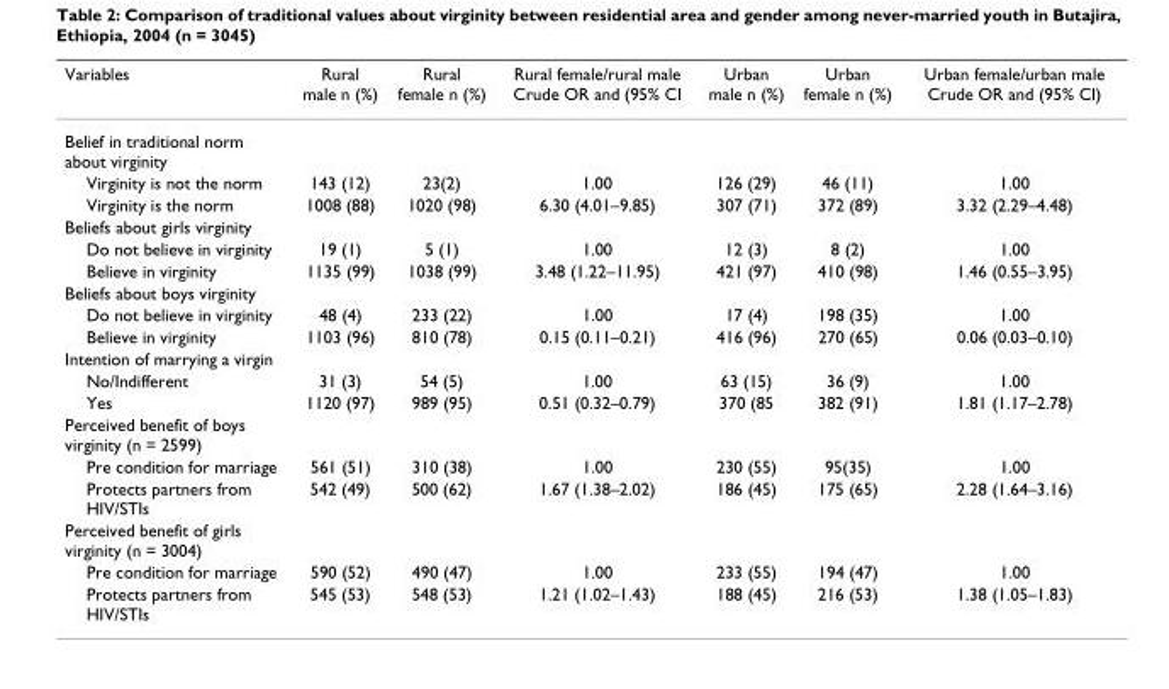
<table><thead><tr><td>Variables</td><td>Rural male n (%)</td><td>Rural female n (%)</td><td>Rural female/rural male Crude OR and (95% CI</td><td>Urban male n (%)</td><td>Urban female n (%)</td><td>Urban female/urban male Crude OR and (95% CI)</td></tr></thead><tbody><tr><td colspan="7">Belief in traditional norm about virginity</td></tr><tr><td>Virginity is not the norm</td><td>143 (12)</td><td>23(2)</td><td>1.00</td><td>126 (29)</td><td>46 (11)</td><td>1.00</td></tr><tr><td>Virginity is the norm</td><td>1008 (88)</td><td>1020 (98)</td><td>6.30 (4.01–9.85)</td><td>307 (71)</td><td>372 (89)</td><td>3.32 (2.29–4.48)</td></tr><tr><td colspan="7">Beliefs about girls virginity</td></tr><tr><td>Do not believe in virginity</td><td>19 (1)</td><td>5 (1)</td><td>1.00</td><td>12 (3)</td><td>8 (2)</td><td>1.00</td></tr><tr><td>Believe in virginity</td><td>1135 (99)</td><td>1038 (99)</td><td>3.48 (1.22–11.95)</td><td>421 (97)</td><td>410 (98)</td><td>1.46 (0.55–3.95)</td></tr><tr><td colspan="7">Beliefs about boys virginity</td></tr><tr><td>Do not believe in virginity</td><td>48 (4)</td><td>233 (22)</td><td>1.00</td><td>17 (4)</td><td>198 (35)</td><td>1.00</td></tr><tr><td>Believe in virginity</td><td>1103 (96)</td><td>810 (78)</td><td>0.15 (0.11–0.21)</td><td>416 (96)</td><td>270 (65)</td><td>0.06 (0.03–0.10)</td></tr><tr><td colspan="7">Intention of marrying a virgin</td></tr><tr><td>No/Indifferent</td><td>31 (3)</td><td>54 (5)</td><td>1.00</td><td>63 (15)</td><td>36 (9)</td><td>1.00</td></tr><tr><td>Yes</td><td>1120 (97)</td><td>989 (95)</td><td>0.51 (0.32–0.79)</td><td>370 (85</td><td>382 (91)</td><td>1.81 (1.17–2.78)</td></tr><tr><td colspan="7">Perceived benefit of boys virginity (n = 2599)</td></tr><tr><td>Pre condition for marriage</td><td>561 (51)</td><td>310 (38)</td><td>1.00</td><td>230 (55)</td><td>95(35)</td><td>1.00</td></tr><tr><td>Protects partners from HIV/STIs</td><td>542 (49)</td><td>500 (62)</td><td>1.67 (1.38–2.02)</td><td>186 (45)</td><td>175 (65)</td><td>2.28 (1.64–3.16)</td></tr><tr><td colspan="7">Perceived benefit of girls virginity (n = 3004)</td></tr><tr><td>Pre condition for marriage</td><td>590 (52)</td><td>490 (47)</td><td>1.00</td><td>233 (55)</td><td>194 (47)</td><td>1.00</td></tr><tr><td>Protects partners from HIV/STIs</td><td>545 (53)</td><td>548 (53)</td><td>1.21 (1.02–1.43)</td><td>188 (45)</td><td>216 (53)</td><td>1.38 (1.05–1.83)</td></tr></tbody></table>